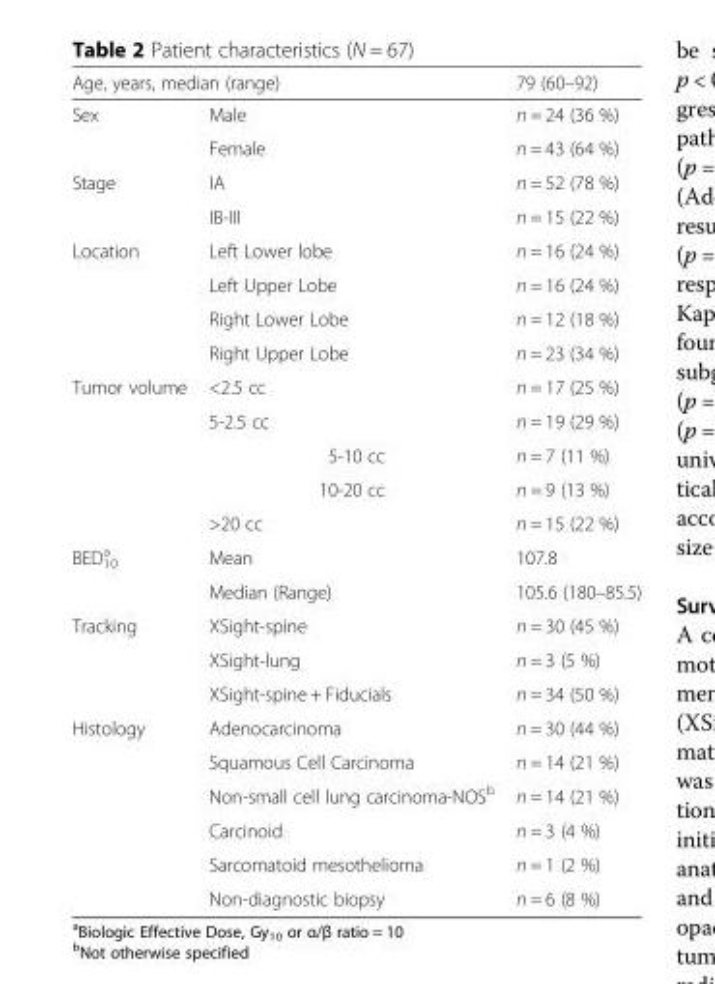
<table><thead><tr><td colspan="2">Age, years, median (range)</td><td rowspan="2">79 (60–92) n = 24 (36 %)</td></tr><tr><td>Sex</td><td>Male</td></tr></thead><tbody><tr><td></td><td>Female</td><td>n = 43 (64 %)</td></tr><tr><td rowspan="2">Stage</td><td>IA</td><td>n = 52 (78 %)</td></tr><tr><td>IB-III</td><td>n = 15 (22 %)</td></tr><tr><td rowspan="4">Location</td><td>Left Lower lobe</td><td>n = 16 (24 %)</td></tr><tr><td>Left Upper Lobe</td><td>n = 16 (24 %)</td></tr><tr><td>Right Lower Lobe</td><td>n = 12 (18 %)</td></tr><tr><td>Right Upper Lobe</td><td>n = 23 (34 %)</td></tr><tr><td rowspan="5">Tumor volume</td><td>&lt;2.5 cc</td><td>n = 17 (25 %)</td></tr><tr><td>5-2.5 cc</td><td>n = 19 (29 %)</td></tr><tr><td>5-10 cc</td><td>n = 7 (11 %)</td></tr><tr><td>10-20 cc</td><td>n = 9 (13 %)</td></tr><tr><td>&gt;20 cc</td><td>n = 15 (22 %)</td></tr><tr><td rowspan="2">BED<sub>10</sub> <sup>a</sup></td><td>Mean</td><td>107.8</td></tr><tr><td>Median (Range)</td><td>105.6 (180–85.5)</td></tr><tr><td rowspan="3">Tracking</td><td>XSight-spine</td><td>n = 30 (45 %)</td></tr><tr><td>XSight-lung</td><td>n = 3 (5 %)</td></tr><tr><td>XSight-spine + Fiducials</td><td>n = 34 (50 %)</td></tr><tr><td rowspan="6">Histology</td><td>Adenocarcinoma</td><td>n = 30 (44 %)</td></tr><tr><td>Squamous Cell Carcinoma</td><td>n = 14 (21 %)</td></tr><tr><td>Non-small cell lung carcinoma-NOS<sup>b</sup></td><td>n = 14 (21 %)</td></tr><tr><td>Carcinoid</td><td>n = 3 (4 %)</td></tr><tr><td>Sarcomatoid mesothelioma</td><td>n = 1 (2 %)</td></tr><tr><td>Non-diagnostic biopsy</td><td>n = 6 (8 %)</td></tr></tbody></table>